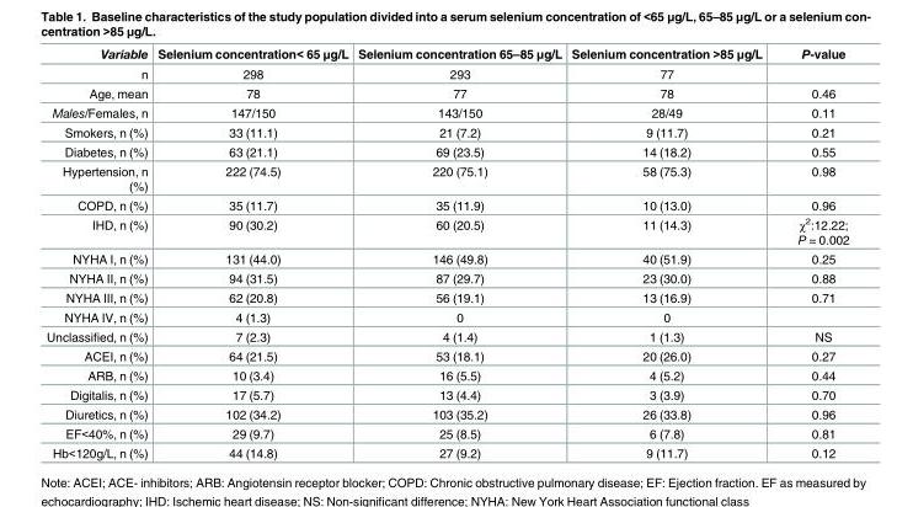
<table><thead><tr><td>Variable</td><td>Selenium concentration&lt; 65 μg/L</td><td>Selenium concentration 65–85 μg/L</td><td>Selenium concentration &gt;85 μg/L</td><td>P-value</td></tr></thead><tbody><tr><td>n</td><td>298</td><td>293</td><td>77</td><td></td></tr><tr><td>Age, mean</td><td>78</td><td>77</td><td>78</td><td>0.46</td></tr><tr><td>Males/Females, n</td><td>147/150</td><td>143/150</td><td>28/49</td><td>0.11</td></tr><tr><td>Smokers, n (%)</td><td>33 (11.1)</td><td>21 (7.2)</td><td>9 (11.7)</td><td>0.21</td></tr><tr><td>Diabetes, n (%)</td><td>63 (21.1)</td><td>69 (23.5)</td><td>14 (18.2)</td><td>0.55</td></tr><tr><td>Hypertension, n (%)</td><td>222 (74.5)</td><td>220 (75.1)</td><td>58 (75.3)</td><td>0.98</td></tr><tr><td>COPD, n (%)</td><td>35 (11.7)</td><td>35 (11.9)</td><td>10 (13.0)</td><td>0.96</td></tr><tr><td>IHD, n (%)</td><td>90 (30.2)</td><td>60 (20.5)</td><td>11 (14.3)</td><td>χ<sup>2</sup>:12.22; P = 0.002</td></tr><tr><td>NYHA I, n (%)</td><td>131 (44.0)</td><td>146 (49.8)</td><td>40 (51.9)</td><td>0.25</td></tr><tr><td>NYHA II, n (%)</td><td>94 (31.5)</td><td>87 (29.7)</td><td>23 (30.0)</td><td>0.88</td></tr><tr><td>NYHA III, n (%)</td><td>62 (20.8)</td><td>56 (19.1)</td><td>13 (16.9)</td><td>0.71</td></tr><tr><td>NYHA IV, n (%)</td><td>4 (1.3)</td><td>0</td><td>0</td><td></td></tr><tr><td>Unclassified, n (%)</td><td>7 (2.3)</td><td>4 (1.4)</td><td>1 (1.3)</td><td>NS</td></tr><tr><td>ACEI, n (%)</td><td>64 (21.5)</td><td>53 (18.1)</td><td>20 (26.0)</td><td>0.27</td></tr><tr><td>ARB, n (%)</td><td>10 (3.4)</td><td>16 (5.5)</td><td>4 (5.2)</td><td>0.44</td></tr><tr><td>Digitalis, n (%)</td><td>17 (5.7)</td><td>13 (4.4)</td><td>3 (3.9)</td><td>0.70</td></tr><tr><td>Diuretics, n (%)</td><td>102 (34.2)</td><td>103 (35.2)</td><td>26 (33.8)</td><td>0.96</td></tr><tr><td>EF&lt;40%, n (%)</td><td>29 (9.7)</td><td>25 (8.5)</td><td>6 (7.8)</td><td>0.81</td></tr><tr><td>Hb&lt;120g/L, n (%)</td><td>44 (14.8)</td><td>27 (9.2)</td><td>9 (11.7)</td><td>0.12</td></tr></tbody></table>